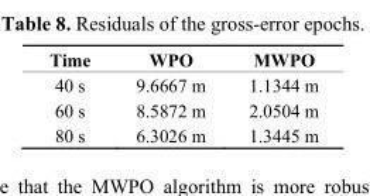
<table><thead><tr><td>Time</td><td>WPO</td><td>MWPO</td></tr></thead><tbody><tr><td>40 s</td><td>9.6667 m</td><td>1.1344 m</td></tr><tr><td>60 s</td><td>8.5872 m</td><td>2.0504 m</td></tr><tr><td>80 s</td><td>6.3026 m</td><td>1.3445 m</td></tr></tbody></table>